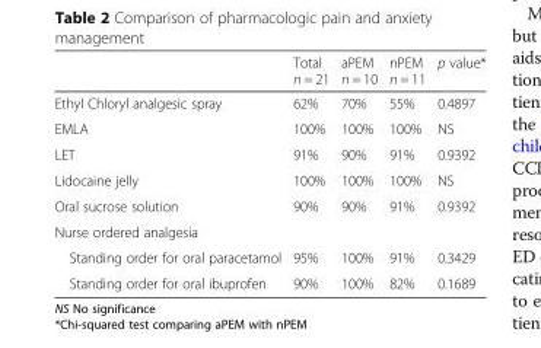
<table><thead><tr><td></td><td>Total n = 21</td><td>aPEM n = 10</td><td>nPEM n = 11</td><td>p value*</td></tr></thead><tbody><tr><td>Ethyl Chloryl analgesic spray</td><td>62%</td><td>70%</td><td>55%</td><td>0.4897</td></tr><tr><td>EMLA</td><td>100%</td><td>100%</td><td>100%</td><td>NS</td></tr><tr><td>LET</td><td>91%</td><td>90%</td><td>91%</td><td>0.9392</td></tr><tr><td>Lidocaine jelly</td><td>100%</td><td>100%</td><td>100%</td><td>NS</td></tr><tr><td>Oral sucrose solution</td><td>90%</td><td>90%</td><td>91%</td><td>0.9392</td></tr><tr><td colspan="5">Nurse ordered analgesia</td></tr><tr><td>Standing order for oral paracetamol</td><td>95%</td><td>100%</td><td>91%</td><td>0.3429</td></tr><tr><td>Standing order for oral ibuprofen</td><td>90%</td><td>100%</td><td>82%</td><td>0.1689</td></tr></tbody></table>